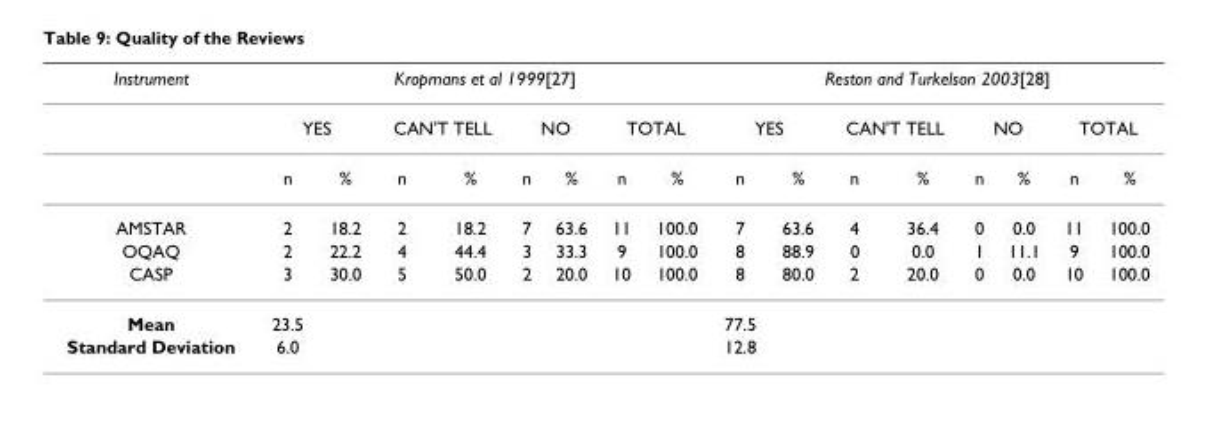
<table><thead><tr><td rowspan="3">Instrument</td><td colspan="8">Kropmans et al 1999[27]</td><td colspan="8">Reston and Turkelson 2003[28]</td></tr><tr><td colspan="2">YES</td><td colspan="2">CAN&#x27;T TELL</td><td colspan="2">NO</td><td colspan="2">TOTAL</td><td colspan="2">YES</td><td colspan="2">CAN&#x27;T TELL</td><td colspan="2">NO</td><td colspan="2">TOTAL</td></tr><tr><td>n</td><td>%</td><td>n</td><td>%</td><td>n</td><td>%</td><td>n</td><td>%</td><td>n</td><td>%</td><td>n</td><td>%</td><td>n</td><td>%</td><td>n</td><td>%</td></tr></thead><tbody><tr><td>AMSTAR</td><td>2</td><td>18.2</td><td>2</td><td>18.2</td><td>7</td><td>63.6</td><td>11</td><td>100.0</td><td>7</td><td>63.6</td><td>4</td><td>36.4</td><td>0</td><td>0.0</td><td>11</td><td>100.0</td></tr><tr><td>OQAQ</td><td>2</td><td>22.2</td><td>4</td><td>44.4</td><td>3</td><td>33.3</td><td>9</td><td>100.0</td><td>8</td><td>88.9</td><td>0</td><td>0.0</td><td>1</td><td>11.1</td><td>9</td><td>100.0</td></tr><tr><td>CASP</td><td>3</td><td>30.0</td><td>5</td><td>50.0</td><td>2</td><td>20.0</td><td>10</td><td>100.0</td><td>8</td><td>80.0</td><td>2</td><td>20.0</td><td>0</td><td>0.0</td><td>10</td><td>100.0</td></tr><tr><td>Mean</td><td>23.5</td><td></td><td></td><td></td><td></td><td></td><td></td><td></td><td>77.5</td><td></td><td></td><td></td><td></td><td></td><td></td><td></td></tr><tr><td>Standard Deviation</td><td>6.0</td><td></td><td></td><td></td><td></td><td></td><td></td><td></td><td>12.8</td><td></td><td></td><td></td><td></td><td></td><td></td><td></td></tr></tbody></table>